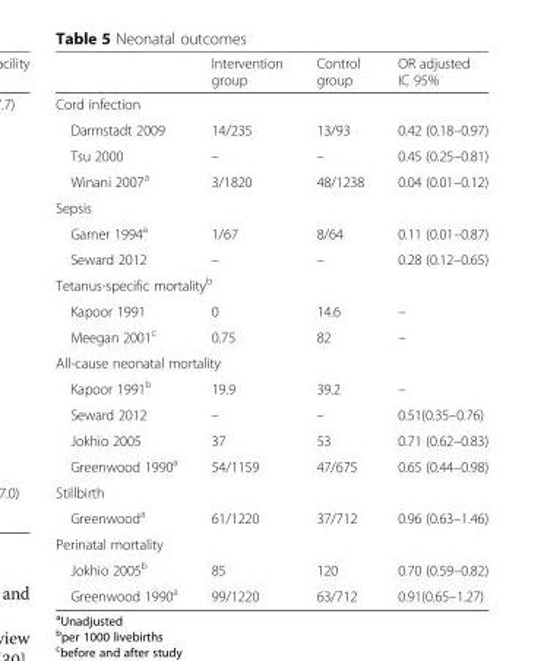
<table><thead><tr><td></td><td>Intervention group</td><td>Control group</td><td>OR adjusted IC 95%</td></tr></thead><tbody><tr><td colspan="4">Cord infection</td></tr><tr><td>Darmstadt 2009</td><td>14/235</td><td>13/93</td><td>0.42 (0.18–0.97)</td></tr><tr><td>Tsu 2000</td><td>–</td><td>–</td><td>0.45 (0.25–0.81)</td></tr><tr><td>Winani 2007<sup>a</sup></td><td>3/1820</td><td>48/1238</td><td>0.04 (0.01–0.12)</td></tr><tr><td colspan="4">Sepsis</td></tr><tr><td>Garner 1994<sup>a</sup></td><td>1/67</td><td>8/64</td><td>0.11 (0.01–0.87)</td></tr><tr><td>Seward 2012</td><td>–</td><td>–</td><td>0.28 (0.12–0.65)</td></tr><tr><td colspan="4">Tetanus-specific mortality<sup>b</sup></td></tr><tr><td>Kapoor 1991</td><td>0</td><td>14.6</td><td>–</td></tr><tr><td>Meegan 2001<sup>c</sup></td><td>0.75</td><td>82</td><td>–</td></tr><tr><td colspan="4">All-cause neonatal mortality</td></tr><tr><td>Kapoor 1991<sup>b</sup></td><td>19.9</td><td>39.2</td><td>–</td></tr><tr><td>Seward 2012</td><td>–</td><td>–</td><td>0.51(0.35–0.76)</td></tr><tr><td>Jokhio 2005</td><td>37</td><td>53</td><td>0.71 (0.62–0.83)</td></tr><tr><td>Greenwood 1990<sup>a</sup></td><td>54/1159</td><td>47/675</td><td>0.65 (0.44–0.98)</td></tr><tr><td colspan="4">Stillbirth</td></tr><tr><td>Greenwood<sup>a</sup></td><td>61/1220</td><td>37/712</td><td>0.96 (0.63–1.46)</td></tr><tr><td colspan="4">Perinatal mortality</td></tr><tr><td>Jokhio 2005<sup>b</sup></td><td>85</td><td>120</td><td>0.70 (0.59–0.82)</td></tr><tr><td>Greenwood 1990<sup>a</sup></td><td>99/1220</td><td>63/712</td><td>0.91(0.65–1.27)</td></tr></tbody></table>